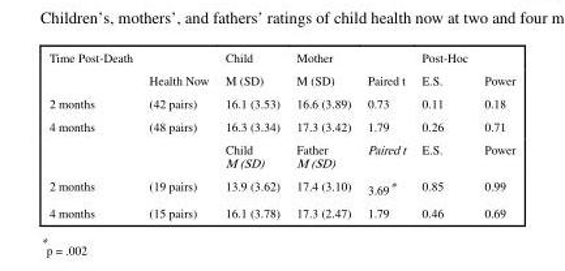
<table><tbody><tr><td rowspan="2">Time Post-Death</td><td></td><td>Child</td><td>Mother</td><td></td><td>Post-Hoc</td><td></td></tr><tr><td>Health Now</td><td>M (SD)</td><td>M (SD)</td><td>Paired t</td><td>E.S.</td><td>Power</td></tr><tr><td>2 months</td><td>(42 pairs)</td><td>16.1 (3.53)</td><td>16.6 (3.89)</td><td>0.73</td><td>0.11</td><td>0.18</td></tr><tr><td rowspan="2">4 months</td><td>(48 pairs)</td><td>16.3 (3.34)</td><td>17.3 (3.42)</td><td>1.79</td><td>0.26</td><td>0.71</td></tr><tr><td></td><td>Child M (SD)</td><td>Father M (SD)</td><td>Paired t</td><td>E.S.</td><td>Power</td></tr><tr><td>2 months</td><td>(19 pairs)</td><td>13.9 (3.62)</td><td>17.4 (3.10)</td><td>3.69*</td><td>0.85</td><td>0.99</td></tr><tr><td>4 months</td><td>(15 pairs)</td><td>16.1 (3.78)</td><td>17.3 (2.47)</td><td>1.79</td><td>0.46</td><td>0.69</td></tr></tbody></table>